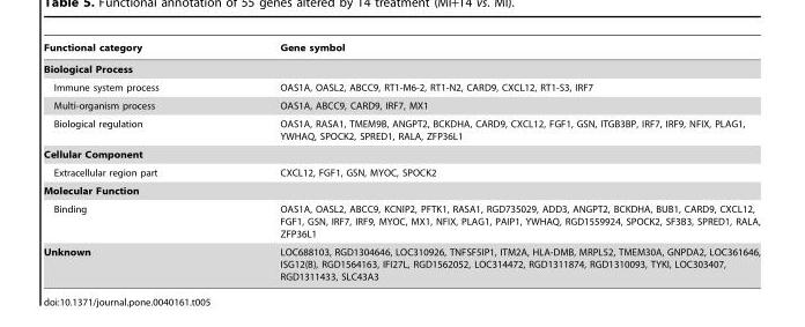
<table><thead><tr><td>Functional category</td><td>Gene symbol</td></tr></thead><tbody><tr><td colspan="2">Biological Process</td></tr><tr><td>Immune system process</td><td>OAS1A, OASL2, ABCC9, RT1-M6-2, RT1-N2, CARD9, CXCL12, RT1-S3, IRF7</td></tr><tr><td>Multi-organism process</td><td>OAS1A, ABCC9, CARD9, IRF7, MX1</td></tr><tr><td>Biological regulation</td><td>OAS1A, RASA1, TMEM9B, ANGPT2, BCKDHA, CARD9, CXCL12, FGF1, GSN, ITGB3BP, IRF7, IRF9, NFIX, PLAG1, YWHAQ, SPOCK2, SPRED1, RALA, ZFP36L1</td></tr><tr><td colspan="2">Cellular Component</td></tr><tr><td>Extracellular region part</td><td>CXCL12, FGF1, GSN, MYOC, SPOCK2</td></tr><tr><td colspan="2">Molecular Function</td></tr><tr><td>Binding</td><td>OAS1A, OASL2, ABCC9, KCNIP2, PFTK1, RASA1, RGD735029, ADD3, ANGPT2, BCKDHA, BUB1, CARD9, CXCL12, FGF1, GSN, IRF7, IRF9, MYOC, MX1, NFIX, PLAG1, PAIP1, YWHAQ, RGD1559924, SPOCK2, SF3B3, SPRED1, RALA, ZFP36L1</td></tr><tr><td>Unknown</td><td>LOC688103, RGD1304646, LOC310926, TNFSF5IP1, ITM2A, HLA-DMB, MRPL52, TMEM30A, GNPDA2, LOC361646, ISG12(B), RGD1564163, IFI27L, RGD1562052, LOC314472, RGD1311874, RGD1310093, TYKI, LOC303407, RGD1311433, SLC43A3</td></tr></tbody></table>